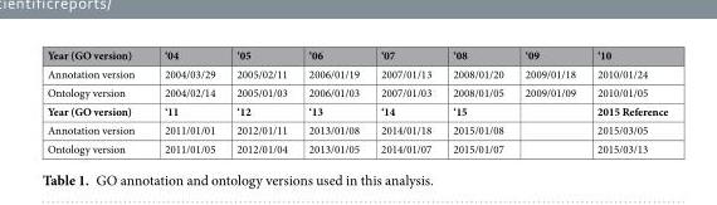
<table><thead><tr><td>Year (GO version)</td><td>‘04</td><td>‘05</td><td>‘06</td><td>‘07</td><td>‘08</td><td>‘09</td><td>‘10</td></tr></thead><tbody><tr><td>Annotation version</td><td>2004/03/29</td><td>2005/02/11</td><td>2006/01/19</td><td>2007/01/13</td><td>2008/01/20</td><td>2009/01/18</td><td>2010/01/24</td></tr><tr><td>Ontology version</td><td>2004/02/14</td><td>2005/01/03</td><td>2006/01/03</td><td>2007/01/03</td><td>2008/01/05</td><td>2009/01/09</td><td>2010/01/05</td></tr><tr><td>Year (GO version)</td><td>‘11</td><td>‘12</td><td>‘13</td><td>‘14</td><td>‘15</td><td></td><td>2015 Reference</td></tr><tr><td>Annotation version</td><td>2011/01/01</td><td>2012/01/11</td><td>2013/01/08</td><td>2014/01/18</td><td>2015/01/08</td><td></td><td>2015/03/05</td></tr><tr><td>Ontology version</td><td>2011/01/05</td><td>2012/01/04</td><td>2013/01/05</td><td>2014/01/07</td><td>2015/01/07</td><td></td><td>2015/03/13</td></tr></tbody></table>